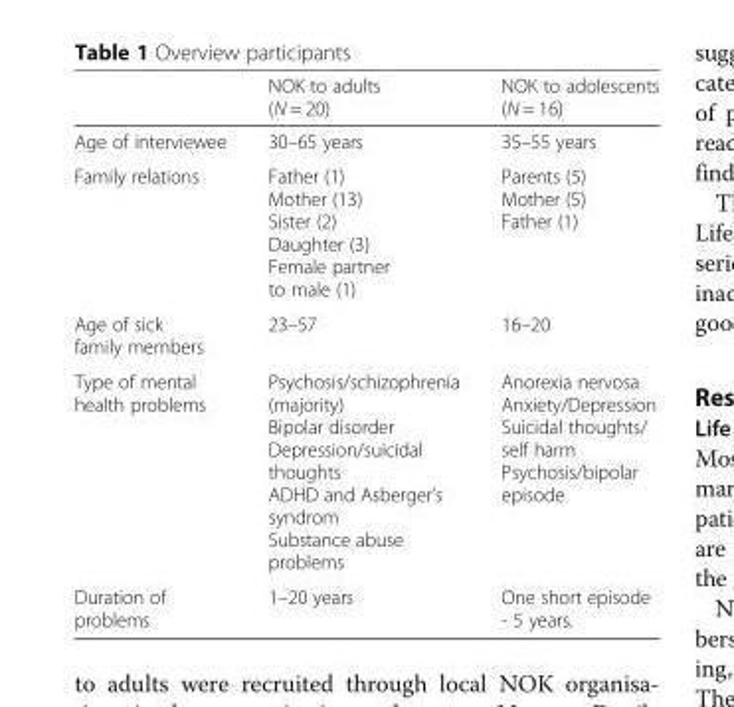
<table><thead><tr><td></td><td>NOK to adults (N = 20)</td><td>NOK to adolescents (N = 16)</td></tr></thead><tbody><tr><td>Age of interviewee</td><td>30–65 years</td><td>35–55 years</td></tr><tr><td>Family relations</td><td>Father (1) Mother (13) Sister (2) Daughter (3) Female partner to male (1)</td><td>Parents (5) Mother (5) Father (1)</td></tr><tr><td>Age of sick family members</td><td>23–57</td><td>16–20</td></tr><tr><td>Type of mental health problems</td><td>Psychosis/schizophrenia (majority) Bipolar disorder Depression/suicidal thoughts ADHD and Asberger’s syndrom Substance abuse problems</td><td>Anorexia nervosa Anxiety/Depression Suicidal thoughts/ self harm Psychosis/bipolar episode</td></tr><tr><td>Duration of problems</td><td>1–20 years</td><td>One short episode - 5 years.</td></tr></tbody></table>